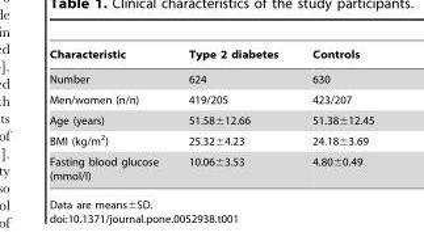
<table><thead><tr><td>Characteristic</td><td>Type 2 diabetes</td><td>Controls</td></tr></thead><tbody><tr><td>Number</td><td>624</td><td>630</td></tr><tr><td>Men/women (n/n)</td><td>419/205</td><td>423/207</td></tr><tr><td>Age (years)</td><td>51.58±12.66</td><td>51.38±12.45</td></tr><tr><td>BMI (kg/m<sup>2</sup>)</td><td>25.32±4.23</td><td>24.18±3.69</td></tr><tr><td>Fasting blood glucose (mmol/l)</td><td>10.06±3.53</td><td>4.80±0.49</td></tr></tbody></table>